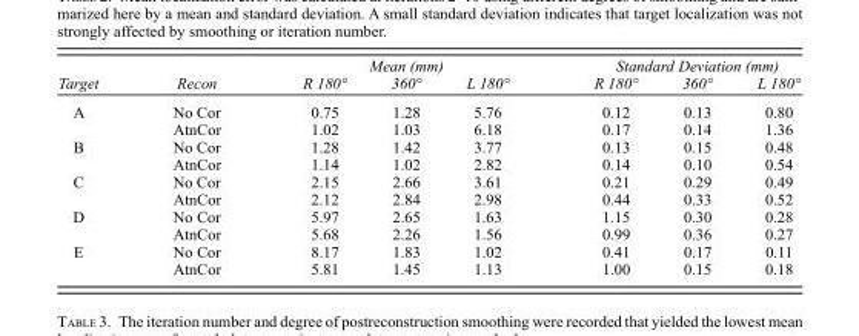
<table><thead><tr><td rowspan="2">Target</td><td rowspan="2">Recon</td><td rowspan="2">R 180°</td><td rowspan="2">Mean (mm) 360°</td><td rowspan="2">L 180°</td><td colspan="3">Standard Deviation (mm)</td></tr><tr><td>R 180°</td><td>360°</td><td>L 180°</td></tr></thead><tbody><tr><td rowspan="2">A</td><td>No Cor</td><td>0.75</td><td>1.28</td><td>5.76</td><td>0.12</td><td>0.13</td><td>0.80</td></tr><tr><td>AtnCor</td><td>1.02</td><td>1.03</td><td>6.18</td><td>0.17</td><td>0.14</td><td>1.36</td></tr><tr><td rowspan="2">B</td><td>No Cor</td><td>1.28</td><td>1.42</td><td>3.77</td><td>0.13</td><td>0.15</td><td>0.48</td></tr><tr><td>AtnCor</td><td>1.14</td><td>1.02</td><td>2.82</td><td>0.14</td><td>0.10</td><td>0.54</td></tr><tr><td rowspan="2">C</td><td>No Cor</td><td>2.15</td><td>2.66</td><td>3.61</td><td>0.21</td><td>0.29</td><td>0.49</td></tr><tr><td>AtnCor</td><td>2.12</td><td>2.84</td><td>2.98</td><td>0.44</td><td>0.33</td><td>0.52</td></tr><tr><td rowspan="2">D</td><td>No Cor</td><td>5.97</td><td>2.65</td><td>1.63</td><td>1.15</td><td>0.30</td><td>0.28</td></tr><tr><td>AtnCor</td><td>5.68</td><td>2.26</td><td>1.56</td><td>0.99</td><td>0.36</td><td>0.27</td></tr><tr><td rowspan="2">E</td><td>No Cor</td><td>8.17</td><td>1.83</td><td>1.02</td><td>0.41</td><td>0.17</td><td>0.11</td></tr><tr><td>AtnCor</td><td>5.81</td><td>1.45</td><td>1.13</td><td>1.00</td><td>0.15</td><td>0.18</td></tr></tbody></table>